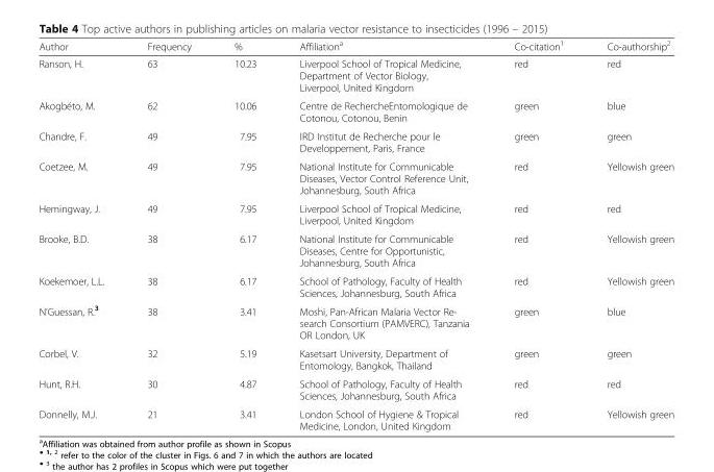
<table><thead><tr><td>Author</td><td>Frequency</td><td>%</td><td>Affiliation<sup>a</sup></td><td>Co-citation<sup>1</sup></td><td>Co-authorship<sup>2</sup></td></tr></thead><tbody><tr><td>Ranson, H.</td><td>63</td><td>10.23</td><td>Liverpool School of Tropical Medicine, Department of Vector Biology, Liverpool, United Kingdom</td><td>red</td><td>red</td></tr><tr><td>Akogbéto, M.</td><td>62</td><td>10.06</td><td>Centre de RechercheEntomologique de Cotonou, Cotonou, Benin</td><td>green</td><td>blue</td></tr><tr><td>Chandre, F.</td><td>49</td><td>7.95</td><td>IRD Institut de Recherche pour le Developpement, Paris, France</td><td>green</td><td>green</td></tr><tr><td>Coetzee, M.</td><td>49</td><td>7.95</td><td>National Institute for Communicable Diseases, Vector Control Reference Unit, Johannesburg, South Africa</td><td>red</td><td>Yellowish green</td></tr><tr><td>Hemingway, J.</td><td>49</td><td>7.95</td><td>Liverpool School of Tropical Medicine, Liverpool, United Kingdom</td><td>red</td><td>red</td></tr><tr><td>Brooke, B.D.</td><td>38</td><td>6.17</td><td>National Institute for Communicable Diseases, Centre for Opportunistic, Johannesburg, South Africa</td><td>red</td><td>Yellowish green</td></tr><tr><td>Koekemoer, L.L.</td><td>38</td><td>6.17</td><td>School of Pathology, Faculty of Health Sciences, Johannesburg, South Africa</td><td>red</td><td>Yellowish green</td></tr><tr><td>N’Guessan, R.<sup>3</sup></td><td>38</td><td>3.41</td><td>Moshi, Pan-African Malaria Vector Re- search Consortium (PAMVERC), Tanzania OR London, UK</td><td>green</td><td>blue</td></tr><tr><td>Corbel, V.</td><td>32</td><td>5.19</td><td>Kasetsart University, Department of Entomology, Bangkok, Thailand</td><td>green</td><td>green</td></tr><tr><td>Hunt, R.H.</td><td>30</td><td>4.87</td><td>School of Pathology, Faculty of Health Sciences, Johannesburg, South Africa</td><td>red</td><td>red</td></tr><tr><td>Donnelly, M.J.</td><td>21</td><td>3.41</td><td>London School of Hygiene &amp; Tropical Medicine, London, United Kingdom</td><td>red</td><td>Yellowish green</td></tr></tbody></table>